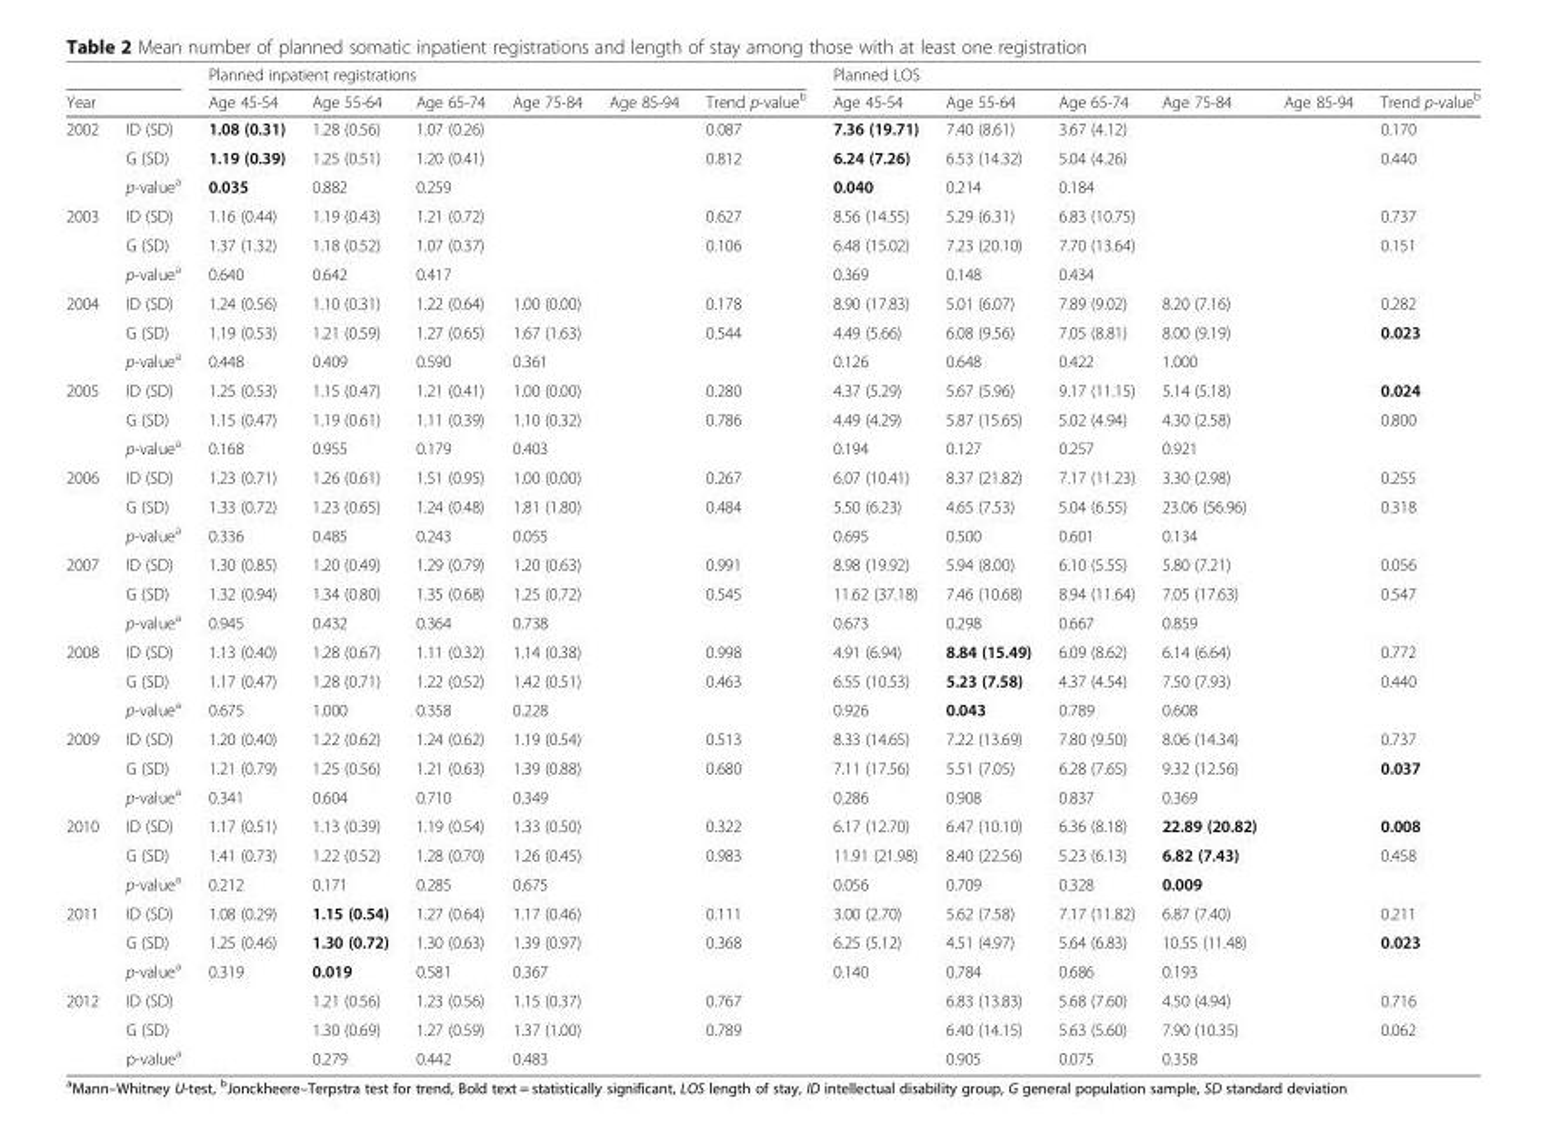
<table><thead><tr><td rowspan="2">Year</td><td rowspan="2"></td><td colspan="6">Planned inpatient registrations</td><td colspan="6">Planned LOS</td></tr><tr><td>Age 45-54</td><td>Age 55-64</td><td>Age 65-74</td><td>Age 75-84</td><td>Age 85-94</td><td>Trend p-value<sup>b</sup></td><td>Age 45-54</td><td>Age 55-64</td><td>Age 65-74</td><td>Age 75-84</td><td>Age 85-94</td><td>Trend p-value<sup>b</sup></td></tr></thead><tbody><tr><td rowspan="3">2002</td><td>ID (SD)</td><td>1.08 (0.31)</td><td>1.28 (0.56)</td><td>1.07 (0.26)</td><td></td><td></td><td>0.087</td><td>7.36 (19.71)</td><td>7.40 (8.61)</td><td>3.67 (4.12)</td><td></td><td></td><td>0.170</td></tr><tr><td>G (SD)</td><td>1.19 (0.39)</td><td>1.25 (0.51)</td><td>1.20 (0.41)</td><td></td><td></td><td>0.812</td><td>6.24 (7.26)</td><td>6.53 (14.32)</td><td>5.04 (4.26)</td><td></td><td></td><td>0.440</td></tr><tr><td>p-value<sup>a</sup></td><td>0.035</td><td>0.882</td><td>0.259</td><td></td><td></td><td></td><td>0.040</td><td>0.214</td><td>0.184</td><td></td><td></td><td></td></tr><tr><td rowspan="3">2003</td><td>ID (SD)</td><td>1.16 (0.44)</td><td>1.19 (0.43)</td><td>1.21 (0.72)</td><td></td><td></td><td>0.627</td><td>8.56 (14.55)</td><td>5.29 (6.31)</td><td>6.83 (10.75)</td><td></td><td></td><td>0.737</td></tr><tr><td>G (SD)</td><td>1.37 (1.32)</td><td>1.18 (0.52)</td><td>1.07 (0.37)</td><td></td><td></td><td>0.106</td><td>6.48 (15.02)</td><td>7.23 (20.10)</td><td>7.70 (13.64)</td><td></td><td></td><td>0.151</td></tr><tr><td>p-value<sup>a</sup></td><td>0.640</td><td>0.642</td><td>0.417</td><td></td><td></td><td></td><td>0.369</td><td>0.148</td><td>0.434</td><td></td><td></td><td></td></tr><tr><td rowspan="3">2004</td><td>ID (SD)</td><td>1.24 (0.56)</td><td>1.10 (0.31)</td><td>1.22 (0.64)</td><td>1.00 (0.00)</td><td></td><td>0.178</td><td>8.90 (17.83)</td><td>5.01 (6.07)</td><td>7.89 (9.02)</td><td>8.20 (7.16)</td><td></td><td>0.282</td></tr><tr><td>G (SD)</td><td>1.19 (0.53)</td><td>1.21 (0.59)</td><td>1.27 (0.65)</td><td>1.67 (1.63)</td><td></td><td>0.544</td><td>4.49 (5.66)</td><td>6.08 (9.56)</td><td>7.05 (8.81)</td><td>8.00 (9.19)</td><td></td><td>0.023</td></tr><tr><td>p-value<sup>a</sup></td><td>0.448</td><td>0.409</td><td>0.590</td><td>0.361</td><td></td><td></td><td>0.126</td><td>0.648</td><td>0.422</td><td>1.000</td><td></td><td></td></tr><tr><td rowspan="3">2005</td><td>ID (SD)</td><td>1.25 (0.53)</td><td>1.15 (0.47)</td><td>1.21 (0.41)</td><td>1.00 (0.00)</td><td></td><td>0.280</td><td>4.37 (5.29)</td><td>5.67 (5.96)</td><td>9.17 (11.15)</td><td>5.14 (5.18)</td><td></td><td>0.024</td></tr><tr><td>G (SD)</td><td>1.15 (0.47)</td><td>1.19 (0.61)</td><td>1.11 (0.39)</td><td>1.10 (0.32)</td><td></td><td>0.786</td><td>4.49 (4.29)</td><td>5.87 (15.65)</td><td>5.02 (4.94)</td><td>4.30 (2.58)</td><td></td><td>0.800</td></tr><tr><td>p-value<sup>a</sup></td><td>0.168</td><td>0.955</td><td>0.179</td><td>0.403</td><td></td><td></td><td>0.194</td><td>0.127</td><td>0.257</td><td>0.921</td><td></td><td></td></tr><tr><td rowspan="3">2006</td><td>ID (SD)</td><td>1.23 (0.71)</td><td>1.26 (0.61)</td><td>1.51 (0.95)</td><td>1.00 (0.00)</td><td></td><td>0.267</td><td>6.07 (10.41)</td><td>8.37 (21.82)</td><td>7.17 (11.23)</td><td>3.30 (2.98)</td><td></td><td>0.255</td></tr><tr><td>G (SD)</td><td>1.33 (0.72)</td><td>1.23 (0.65)</td><td>1.24 (0.48)</td><td>1.81 (1.80)</td><td></td><td>0.484</td><td>5.50 (6.23)</td><td>4.65 (7.53)</td><td>5.04 (6.55)</td><td>23.06 (56.96)</td><td></td><td>0.318</td></tr><tr><td>p-value<sup>a</sup></td><td>0.336</td><td>0.485</td><td>0.243</td><td>0.055</td><td></td><td></td><td>0.695</td><td>0.500</td><td>0.601</td><td>0.134</td><td></td><td></td></tr><tr><td rowspan="3">2007</td><td>ID (SD)</td><td>1.30 (0.85)</td><td>1.20 (0.49)</td><td>1.29 (0.79)</td><td>1.20 (0.63)</td><td></td><td>0.991</td><td>8.98 (19.92)</td><td>5.94 (8.00)</td><td>6.10 (5.55)</td><td>5.80 (7.21)</td><td></td><td>0.056</td></tr><tr><td>G (SD)</td><td>1.32 (0.94)</td><td>1.34 (0.80)</td><td>1.35 (0.68)</td><td>1.25 (0.72)</td><td></td><td>0.545</td><td>11.62 (37.18)</td><td>7.46 (10.68)</td><td>8.94 (11.64)</td><td>7.05 (17.63)</td><td></td><td>0.547</td></tr><tr><td>p-value<sup>a</sup></td><td>0.945</td><td>0.432</td><td>0.364</td><td>0.738</td><td></td><td></td><td>0.673</td><td>0.298</td><td>0.667</td><td>0.859</td><td></td><td></td></tr><tr><td rowspan="3">2008</td><td>ID (SD)</td><td>1.13 (0.40)</td><td>1.28 (0.67)</td><td>1.11 (0.32)</td><td>1.14 (0.38)</td><td></td><td>0.998</td><td>4.91 (6.94)</td><td>8.84 (15.49)</td><td>6.09 (8.62)</td><td>6.14 (6.64)</td><td></td><td>0.772</td></tr><tr><td>G (SD)</td><td>1.17 (0.47)</td><td>1.28 (0.71)</td><td>1.22 (0.52)</td><td>1.42 (0.51)</td><td></td><td>0.463</td><td>6.55 (10.53)</td><td>5.23 (7.58)</td><td>4.37 (4.54)</td><td>7.50 (7.93)</td><td></td><td>0.440</td></tr><tr><td>p-value<sup>a</sup></td><td>0.675</td><td>1.000</td><td>0.358</td><td>0.228</td><td></td><td></td><td>0.926</td><td>0.043</td><td>0.789</td><td>0.608</td><td></td><td></td></tr><tr><td rowspan="3">2009</td><td>ID (SD)</td><td>1.20 (0.40)</td><td>1.22 (0.62)</td><td>1.24 (0.62)</td><td>1.19 (0.54)</td><td></td><td>0.513</td><td>8.33 (14.65)</td><td>7.22 (13.69)</td><td>7.80 (9.50)</td><td>8.06 (14.34)</td><td></td><td>0.737</td></tr><tr><td>G (SD)</td><td>1.21 (0.79)</td><td>1.25 (0.56)</td><td>1.21 (0.63)</td><td>1.39 (0.88)</td><td></td><td>0.680</td><td>7.11 (17.56)</td><td>5.51 (7.05)</td><td>6.28 (7.65)</td><td>9.32 (12.56)</td><td></td><td>0.037</td></tr><tr><td>p-value<sup>a</sup></td><td>0.341</td><td>0.604</td><td>0.710</td><td>0.349</td><td></td><td></td><td>0.286</td><td>0.908</td><td>0.837</td><td>0.369</td><td></td><td></td></tr><tr><td rowspan="3">2010</td><td>ID (SD)</td><td>1.17 (0.51)</td><td>1.13 (0.39)</td><td>1.19 (0.54)</td><td>1.33 (0.50)</td><td></td><td>0.322</td><td>6.17 (12.70)</td><td>6.47 (10.10)</td><td>6.36 (8.18)</td><td>22.89 (20.82)</td><td></td><td>0.008</td></tr><tr><td>G (SD)</td><td>1.41 (0.73)</td><td>1.22 (0.52)</td><td>1.28 (0.70)</td><td>1.26 (0.45)</td><td></td><td>0.983</td><td>11.91 (21.98)</td><td>8.40 (22.56)</td><td>5.23 (6.13)</td><td>6.82 (7.43)</td><td></td><td>0.458</td></tr><tr><td>p-value<sup>a</sup></td><td>0.212</td><td>0.171</td><td>0.285</td><td>0.675</td><td></td><td></td><td>0.056</td><td>0.709</td><td>0.328</td><td>0.009</td><td></td><td></td></tr><tr><td rowspan="3">2011</td><td>ID (SD)</td><td>1.08 (0.29)</td><td>1.15 (0.54)</td><td>1.27 (0.64)</td><td>1.17 (0.46)</td><td></td><td>0.111</td><td>3.00 (2.70)</td><td>5.62 (7.58)</td><td>7.17 (11.82)</td><td>6.87 (7.40)</td><td></td><td>0.211</td></tr><tr><td>G (SD)</td><td>1.25 (0.46)</td><td>1.30 (0.72)</td><td>1.30 (0.63)</td><td>1.39 (0.97)</td><td></td><td>0.368</td><td>6.25 (5.12)</td><td>4.51 (4.97)</td><td>5.64 (6.83)</td><td>10.55 (11.48)</td><td></td><td>0.023</td></tr><tr><td>p-value<sup>a</sup></td><td>0.319</td><td>0.019</td><td>0.581</td><td>0.367</td><td></td><td></td><td>0.140</td><td>0.784</td><td>0.686</td><td>0.193</td><td></td><td></td></tr><tr><td rowspan="3">2012</td><td>ID (SD)</td><td></td><td>1.21 (0.56)</td><td>1.23 (0.56)</td><td>1.15 (0.37)</td><td></td><td>0.767</td><td></td><td>6.83 (13.83)</td><td>5.68 (7.60)</td><td>4.50 (4.94)</td><td></td><td>0.716</td></tr><tr><td>G (SD)</td><td></td><td>1.30 (0.69)</td><td>1.27 (0.59)</td><td>1.37 (1.00)</td><td></td><td>0.789</td><td></td><td>6.40 (14.15)</td><td>5.63 (5.60)</td><td>7.90 (10.35)</td><td></td><td>0.062</td></tr><tr><td>p-value<sup>a</sup></td><td></td><td>0.279</td><td>0.442</td><td>0.483</td><td></td><td></td><td></td><td>0.905</td><td>0.075</td><td>0.358</td><td></td><td></td></tr></tbody></table>